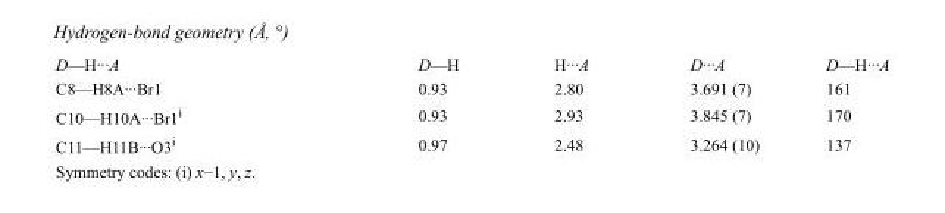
<table><tbody><tr><td>D—H···A</td><td>D—H</td><td>H···A</td><td>D···A</td><td>D—H···A</td></tr><tr><td>C8—H8A···Br1</td><td>0.93</td><td>2.80</td><td>3.691 (7)</td><td>161</td></tr><tr><td>C10—H10A···Br1<sup>i</sup></td><td>0.93</td><td>2.93</td><td>3.845 (7)</td><td>170</td></tr><tr><td>C11—H11B···O3<sup>i</sup></td><td>0.97</td><td>2.48</td><td>3.264 (10)</td><td>137</td></tr></tbody></table>